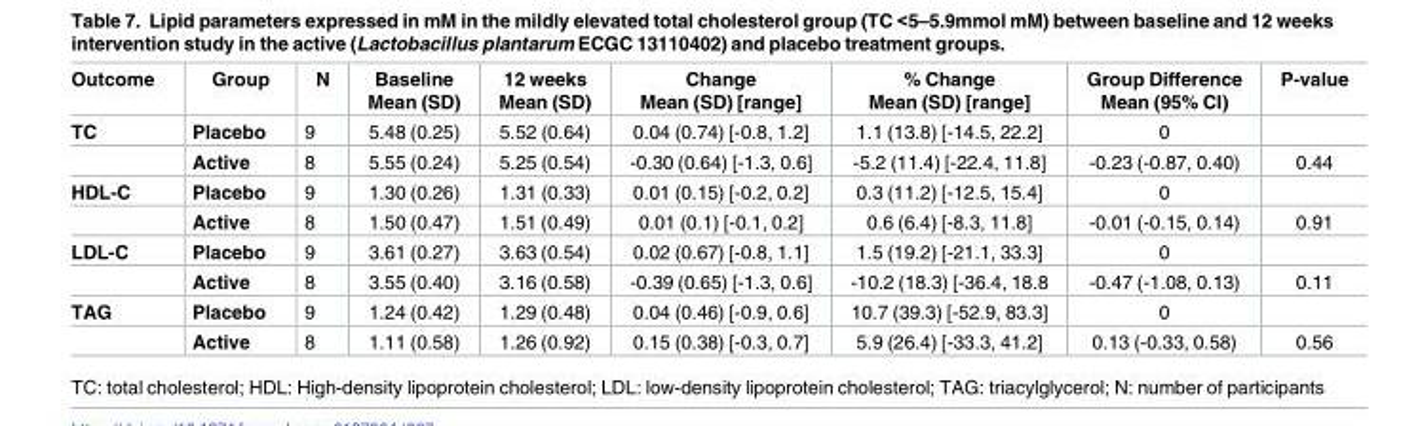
<table><thead><tr><td>Outcome</td><td>Group</td><td>N</td><td>Baseline Mean (SD)</td><td>12 weeks Mean (SD)</td><td>Change Mean (SD) [range]</td><td>% Change Mean (SD) [range]</td><td>Group Difference Mean (95% CI)</td><td>P-value</td></tr></thead><tbody><tr><td rowspan="2">TC</td><td>Placebo</td><td>9</td><td>5.48 (0.25)</td><td>5.52 (0.64)</td><td>0.04 (0.74) [-0.8, 1.2]</td><td>1.1 (13.8) [-14.5, 22.2]</td><td>0</td><td></td></tr><tr><td>Active</td><td>8</td><td>5.55 (0.24)</td><td>5.25 (0.54)</td><td>-0.30 (0.64) [-1.3, 0.6]</td><td>-5.2 (11.4) [-22.4, 11.8]</td><td>-0.23 (-0.87, 0.40)</td><td>0.44</td></tr><tr><td rowspan="2">HDL-C</td><td>Placebo</td><td>9</td><td>1.30 (0.26)</td><td>1.31 (0.33)</td><td>0.01 (0.15) [-0.2, 0.2]</td><td>0.3 (11.2) [-12.5, 15.4]</td><td>0</td><td></td></tr><tr><td>Active</td><td>8</td><td>1.50 (0.47)</td><td>1.51 (0.49)</td><td>0.01 (0.1) [-0.1, 0.2]</td><td>0.6 (6.4) [-8.3, 11.8]</td><td>-0.01 (-0.15, 0.14)</td><td>0.91</td></tr><tr><td rowspan="2">LDL-C</td><td>Placebo</td><td>9</td><td>3.61 (0.27)</td><td>3.63 (0.54)</td><td>0.02 (0.67) [-0.8, 1.1]</td><td>1.5 (19.2) [-21.1, 33.3]</td><td>0</td><td></td></tr><tr><td>Active</td><td>8</td><td>3.55 (0.40)</td><td>3.16 (0.58)</td><td>-0.39 (0.65) [-1.3, 0.6]</td><td>-10.2 (18.3) [-36.4, 18.8</td><td>-0.47 (-1.08, 0.13)</td><td>0.11</td></tr><tr><td rowspan="2">TAG</td><td>Placebo</td><td>9</td><td>1.24 (0.42)</td><td>1.29 (0.48)</td><td>0.04 (0.46) [-0.9, 0.6]</td><td>10.7 (39.3) [-52.9, 83.3]</td><td>0</td><td></td></tr><tr><td>Active</td><td>8</td><td>1.11 (0.58)</td><td>1.26 (0.92)</td><td>0.15 (0.38) [-0.3, 0.7]</td><td>5.9 (26.4) [-33.3, 41.2]</td><td>0.13 (-0.33, 0.58)</td><td>0.56</td></tr></tbody></table>